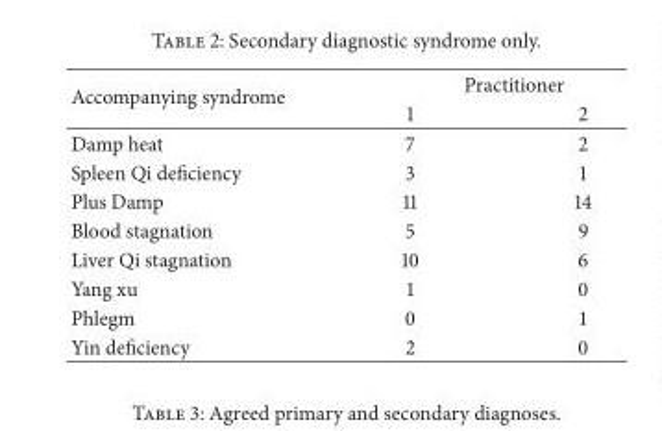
<table><thead><tr><td rowspan="2">Accompanying syndrome</td><td colspan="2">Practitioner</td></tr><tr><td>1</td><td>2</td></tr></thead><tbody><tr><td>Damp heat</td><td>7</td><td>2</td></tr><tr><td>Spleen Qi deficiency</td><td>3</td><td>1</td></tr><tr><td>Plus Damp</td><td>11</td><td>14</td></tr><tr><td>Blood stagnation</td><td>5</td><td>9</td></tr><tr><td>Liver Qi stagnation</td><td>10</td><td>6</td></tr><tr><td>Yang xu</td><td>1</td><td>0</td></tr><tr><td>Phlegm</td><td>0</td><td>1</td></tr><tr><td>Yin deficiency</td><td>2</td><td>0</td></tr></tbody></table>